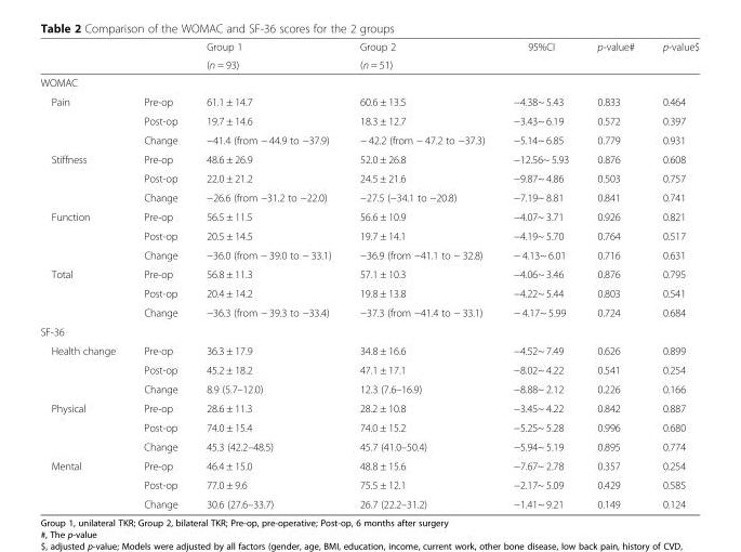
<table><thead><tr><td rowspan="2"></td><td rowspan="2"></td><td rowspan="2">Group 1 (n = 93)</td><td rowspan="2">Group 2 (n = 51)</td><td rowspan="2">95%CI</td><td rowspan="2">p-value#</td><td rowspan="2">p-value$</td></tr><tr></tr></thead><tbody><tr><td colspan="7">WOMAC</td></tr><tr><td rowspan="3">Pain</td><td>Pre-op</td><td>61.1 ± 14.7</td><td>60.6 ± 13.5</td><td>−4.38~ 5.43</td><td>0.833</td><td>0.464</td></tr><tr><td>Post-op</td><td>19.7 ± 14.6</td><td>18.3 ± 12.7</td><td>−3.43~ 6.19</td><td>0.572</td><td>0.397</td></tr><tr><td>Change</td><td>−41.4 (from − 44.9 to −37.9)</td><td>− 42.2 (from − 47.2 to −37.3)</td><td>−5.14~ 6.85</td><td>0.779</td><td>0.931</td></tr><tr><td rowspan="3">Stiffness</td><td>Pre-op</td><td>48.6 ± 26.9</td><td>52.0 ± 26.8</td><td>−12.56~ 5.93</td><td>0.876</td><td>0.608</td></tr><tr><td>Post-op</td><td>22.0 ± 21.2</td><td>24.5 ± 21.6</td><td>−9.87~ 4.86</td><td>0.503</td><td>0.757</td></tr><tr><td>Change</td><td>−26.6 (from −31.2 to −22.0)</td><td>−27.5 (−34.1 to −20.8)</td><td>−7.19~ 8.81</td><td>0.841</td><td>0.741</td></tr><tr><td rowspan="3">Function</td><td>Pre-op</td><td>56.5 ± 11.5</td><td>56.6 ± 10.9</td><td>−4.07~ 3.71</td><td>0.926</td><td>0.821</td></tr><tr><td>Post-op</td><td>20.5 ± 14.5</td><td>19.7 ± 14.1</td><td>−4.19~ 5.70</td><td>0.764</td><td>0.517</td></tr><tr><td>Change</td><td>−36.0 (from − 39.0 to − 33.1)</td><td>−36.9 (from −41.1 to − 32.8)</td><td>− 4.13~ 6.01</td><td>0.716</td><td>0.631</td></tr><tr><td rowspan="3">Total</td><td>Pre-op</td><td>56.8 ± 11.3</td><td>57.1 ± 10.3</td><td>−4.06~ 3.46</td><td>0.876</td><td>0.795</td></tr><tr><td>Post-op</td><td>20.4 ± 14.2</td><td>19.8 ± 13.8</td><td>−4.22~ 5.44</td><td>0.803</td><td>0.541</td></tr><tr><td>Change</td><td>−36.3 (from − 39.3 to −33.4)</td><td>−37.3 (from −41.4 to − 33.1)</td><td>− 4.17~ 5.99</td><td>0.724</td><td>0.684</td></tr><tr><td colspan="7">SF-36</td></tr><tr><td rowspan="3">Health change</td><td>Pre-op</td><td>36.3 ± 17.9</td><td>34.8 ± 16.6</td><td>−4.52~ 7.49</td><td>0.626</td><td>0.899</td></tr><tr><td>Post-op</td><td>45.2 ± 18.2</td><td>47.1 ± 17.1</td><td>−8.02~ 4.22</td><td>0.541</td><td>0.254</td></tr><tr><td>Change</td><td>8.9 (5.7–12.0)</td><td>12.3 (7.6–16.9)</td><td>−8.88~ 2.12</td><td>0.226</td><td>0.166</td></tr><tr><td rowspan="3">Physical</td><td>Pre-op</td><td>28.6 ± 11.3</td><td>28.2 ± 10.8</td><td>−3.45~ 4.22</td><td>0.842</td><td>0.887</td></tr><tr><td>Post-op</td><td>74.0 ± 15.4</td><td>74.0 ± 15.2</td><td>−5.25~ 5.28</td><td>0.996</td><td>0.680</td></tr><tr><td>Change</td><td>45.3 (42.2–48.5)</td><td>45.7 (41.0–50.4)</td><td>−5.94~ 5.19</td><td>0.895</td><td>0.774</td></tr><tr><td rowspan="3">Mental</td><td>Pre-op</td><td>46.4 ± 15.0</td><td>48.8 ± 15.6</td><td>−7.67~ 2.78</td><td>0.357</td><td>0.254</td></tr><tr><td>Post-op</td><td>77.0 ± 9.6</td><td>75.5 ± 12.1</td><td>−2.17~ 5.09</td><td>0.429</td><td>0.585</td></tr><tr><td>Change</td><td>30.6 (27.6–33.7)</td><td>26.7 (22.2–31.2)</td><td>−1.41~ 9.21</td><td>0.149</td><td>0.124</td></tr></tbody></table>